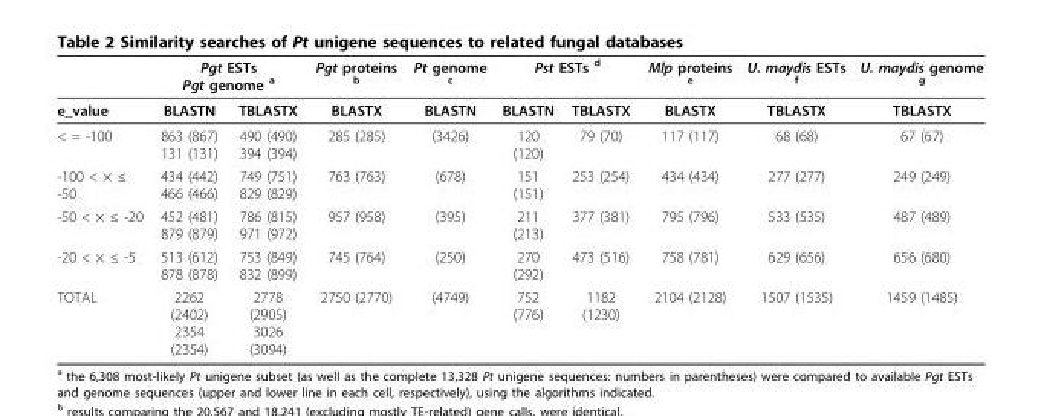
<table><thead><tr><td rowspan="2">e_value</td><td colspan="2">Pgt ESTs Pgt genome a</td><td rowspan="2">Pgt proteins b BLASTX</td><td rowspan="2">Pt genome c BLASTN</td><td colspan="2">Pst ESTs d</td><td rowspan="2">Mlp proteins e BLASTX</td><td rowspan="2">U. maydis ESTs f TBLASTX</td><td rowspan="2">U. maydis genome g TBLASTX</td></tr><tr><td>BLASTN</td><td>TBLASTX</td><td>BLASTN</td><td>TBLASTX</td></tr></thead><tbody><tr><td>&lt; = -100</td><td>863 (867) 131 (131)</td><td>490 (490) 394 (394)</td><td>285 (285)</td><td>(3426)</td><td>120 (120)</td><td>79 (70)</td><td>117 (117)</td><td>68 (68)</td><td>67 (67)</td></tr><tr><td>-100 &lt; × ≤ -50</td><td>434 (442) 466 (466)</td><td>749 (751) 829 (829)</td><td>763 (763)</td><td>(678)</td><td>151 (151)</td><td>253 (254)</td><td>434 (434)</td><td>277 (277)</td><td>249 (249)</td></tr><tr><td>-50 &lt; × ≤ -20</td><td>452 (481) 879 (879)</td><td>786 (815) 971 (972)</td><td>957 (958)</td><td>(395)</td><td>211 (213)</td><td>377 (381)</td><td>795 (796)</td><td>533 (535)</td><td>487 (489)</td></tr><tr><td>-20 &lt; × ≤ -5</td><td>513 (612) 878 (878)</td><td>753 (849) 832 (899)</td><td>745 (764)</td><td>(250)</td><td>270 (292)</td><td>473 (516)</td><td>758 (781)</td><td>629 (656)</td><td>656 (680)</td></tr><tr><td>TOTAL</td><td>2262 (2402) 2354 (2354)</td><td>2778 (2905) 3026 (3094)</td><td>2750 (2770)</td><td>(4749)</td><td>752 (776)</td><td>1182 (1230)</td><td>2104 (2128)</td><td>1507 (1535)</td><td>1459 (1485)</td></tr></tbody></table>